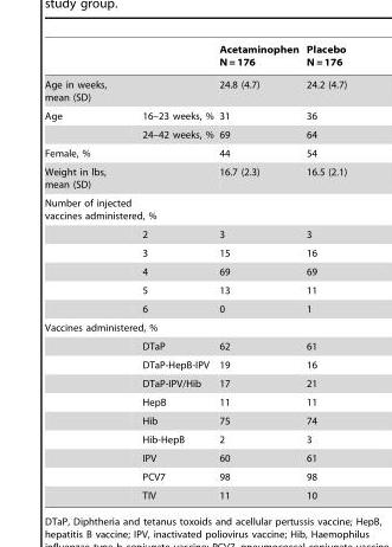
<table><thead><tr><td></td><td></td><td>Acetaminophen N = 176</td><td>Placebo N = 176</td></tr></thead><tbody><tr><td colspan="2">Age in weeks, mean (SD)</td><td>24.8 (4.7)</td><td>24.2 (4.7)</td></tr><tr><td rowspan="2">Age</td><td>16–23 weeks, %</td><td>31</td><td>36</td></tr><tr><td>24–42 weeks, %</td><td>69</td><td>64</td></tr><tr><td>Female, %</td><td></td><td>44</td><td>54</td></tr><tr><td colspan="2">Weight in lbs, mean (SD)</td><td>16.7 (2.3)</td><td>16.5 (2.1)</td></tr><tr><td colspan="4">Number of injected vaccines administered, %</td></tr><tr><td></td><td>2</td><td>3</td><td>3</td></tr><tr><td></td><td>3</td><td>15</td><td>16</td></tr><tr><td></td><td>4</td><td>69</td><td>69</td></tr><tr><td></td><td>5</td><td>13</td><td>11</td></tr><tr><td></td><td>6</td><td>0</td><td>1</td></tr><tr><td colspan="4">Vaccines administered, %</td></tr><tr><td></td><td>DTaP</td><td>62</td><td>61</td></tr><tr><td></td><td>DTaP-HepB-IPV</td><td>19</td><td>16</td></tr><tr><td></td><td>DTaP-IPV/Hib</td><td>17</td><td>21</td></tr><tr><td></td><td>HepB</td><td>11</td><td>11</td></tr><tr><td></td><td>Hib</td><td>75</td><td>74</td></tr><tr><td></td><td>Hib-HepB</td><td>2</td><td>3</td></tr><tr><td></td><td>IPV</td><td>60</td><td>61</td></tr><tr><td></td><td>PCV7</td><td>98</td><td>98</td></tr><tr><td></td><td>TIV</td><td>11</td><td>10</td></tr></tbody></table>